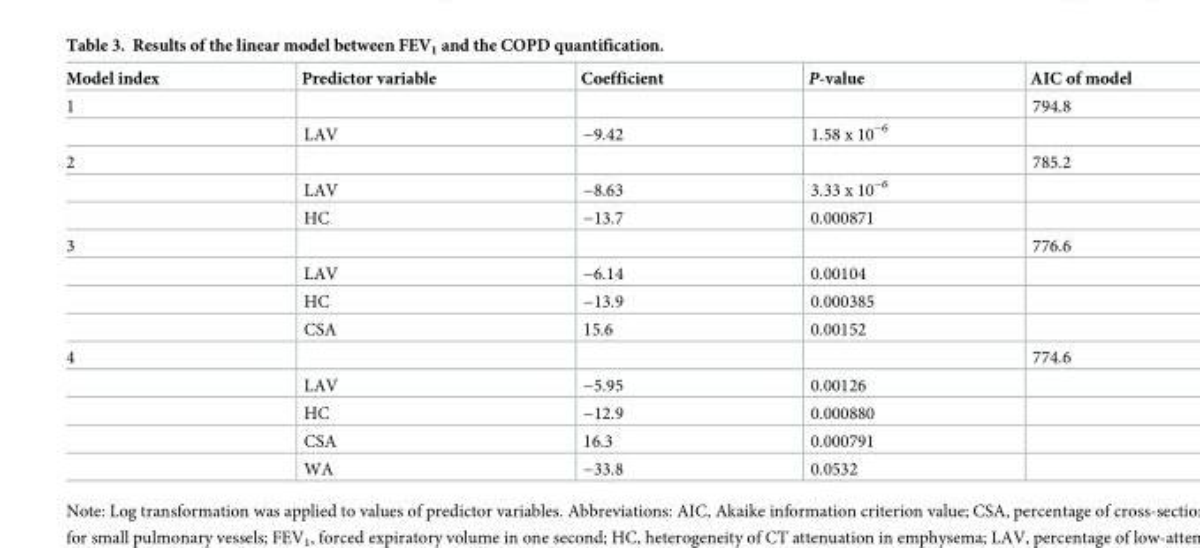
<table><thead><tr><td>Model index</td><td>Predictor variable</td><td>Coefficient</td><td>P-value</td><td>AIC of model</td></tr></thead><tbody><tr><td rowspan="2">1</td><td></td><td></td><td></td><td>794.8</td></tr><tr><td>LAV</td><td>−9.42</td><td>1.58 x 10<sup>−6</sup></td><td></td></tr><tr><td rowspan="3">2</td><td></td><td></td><td></td><td>785.2</td></tr><tr><td>LAV</td><td>−8.63</td><td>3.33 x 10<sup>−6</sup></td><td></td></tr><tr><td>HC</td><td>−13.7</td><td>0.000871</td><td></td></tr><tr><td rowspan="4">3</td><td></td><td></td><td></td><td>776.6</td></tr><tr><td>LAV</td><td>−6.14</td><td>0.00104</td><td></td></tr><tr><td>HC</td><td>−13.9</td><td>0.000385</td><td></td></tr><tr><td>CSA</td><td>15.6</td><td>0.00152</td><td></td></tr><tr><td rowspan="5">4</td><td></td><td></td><td></td><td>774.6</td></tr><tr><td>LAV</td><td>−5.95</td><td>0.00126</td><td></td></tr><tr><td>HC</td><td>−12.9</td><td>0.000880</td><td></td></tr><tr><td>CSA</td><td>16.3</td><td>0.000791</td><td></td></tr><tr><td>WA</td><td>−33.8</td><td>0.0532</td><td></td></tr></tbody></table>